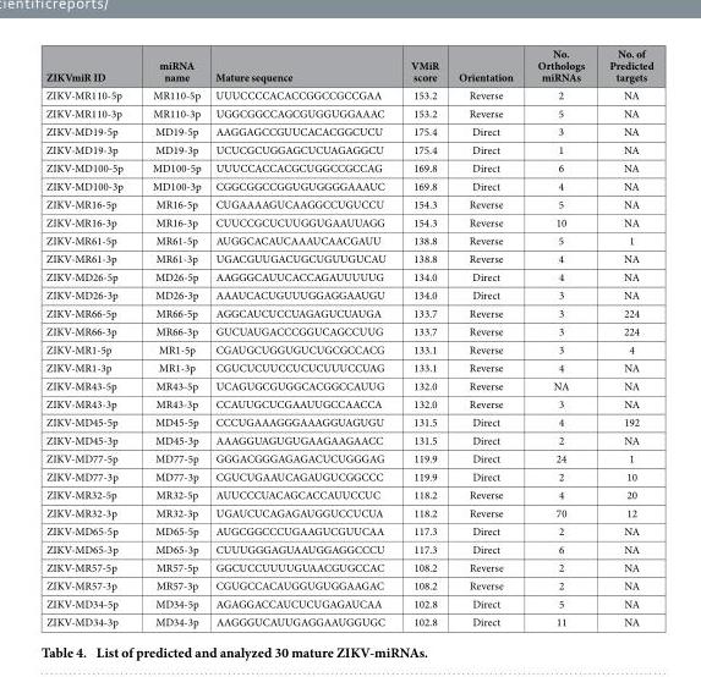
<table><thead><tr><td>ZIKVmiR ID</td><td>miRNA name</td><td>Mature sequence</td><td>VMiR score</td><td>Orientation</td><td>No. Orthologs miRNAs</td><td>No. of Predicted targets</td></tr></thead><tbody><tr><td>ZIKV-MR110-5p</td><td>MR110-5p</td><td>UUUCCCCACACCGGCCGCCGAA</td><td>153.2</td><td>Reverse</td><td>2</td><td>NA</td></tr><tr><td>ZIKV-MR110-3p</td><td>MR110-3p</td><td>UGGCGGCCAGCGUGGUGGAAAC</td><td>153.2</td><td>Reverse</td><td>5</td><td>NA</td></tr><tr><td>ZIKV-MD19-5p</td><td>MD19-5p</td><td>AAGGAGCCGUUCACACGGCUCU</td><td>175.4</td><td>Direct</td><td>3</td><td>NA</td></tr><tr><td>ZIKV-MD19-3p</td><td>MD19-3p</td><td>UCUCGCUGGAGCUCUAGAGGCU</td><td>175.4</td><td>Direct</td><td>1</td><td>NA</td></tr><tr><td>ZIKV-MD100-5p</td><td>MD100-5p</td><td>UUUCCACCACGCUGGCCGCCAG</td><td>169.8</td><td>Direct</td><td>6</td><td>NA</td></tr><tr><td>ZIKV-MD100-3p</td><td>MD100-3p</td><td>CGGCGGCCGGUGUGGGGAAAUC</td><td>169.8</td><td>Direct</td><td>4</td><td>NA</td></tr><tr><td>ZIKV-MR16-5p</td><td>MR16-5p</td><td>CUGAAAAGUCAAGGCCUGUCCU</td><td>154.3</td><td>Reverse</td><td>5</td><td>NA</td></tr><tr><td>ZIKV-MR16-3p</td><td>MR16-3p</td><td>CUUCCGCUCUUGGUGAAUUAGG</td><td>154.3</td><td>Reverse</td><td>10</td><td>NA</td></tr><tr><td>ZIKV-MR61-5p</td><td>MR61-5p</td><td>AUGGCACAUCAAAUCAACGAUU</td><td>138.8</td><td>Reverse</td><td>5</td><td>1</td></tr><tr><td>ZIKV-MR61-3p</td><td>MR61-3p</td><td>UGACGUUGACUGCUGUUGUCAU</td><td>138.8</td><td>Reverse</td><td>4</td><td>NA</td></tr><tr><td>ZIKV-MD26-5p</td><td>MD26-5p</td><td>AAGGGCAUUCACCAGAUUUUUG</td><td>134.0</td><td>Direct</td><td>4</td><td>NA</td></tr><tr><td>ZIKV-MD26-3p</td><td>MD26-3p</td><td>AAAUCACUGUUUGGAGGAAUGU</td><td>134.0</td><td>Direct</td><td>3</td><td>NA</td></tr><tr><td>ZIKV-MR66-5p</td><td>MR66-5p</td><td>AGGCAUCUCCUAGAGUCUAUGA</td><td>133.7</td><td>Reverse</td><td>3</td><td>224</td></tr><tr><td>ZIKV-MR66-3p</td><td>MR66-3p</td><td>GUCUAUGACCCGGUCAGCCUUG</td><td>133.7</td><td>Reverse</td><td>3</td><td>224</td></tr><tr><td>ZIKV-MR1-5p</td><td>MR1-5p</td><td>CGAUGCUGGUGUCUGCGCCACG</td><td>133.1</td><td>Reverse</td><td>3</td><td>4</td></tr><tr><td>ZIKV-MR1-3p</td><td>MR1-3p</td><td>CGUCUCUUCCUCUCUUUCCUAG</td><td>133.1</td><td>Reverse</td><td>4</td><td>NA</td></tr><tr><td>ZIKV-MR43-5p</td><td>MR43-5p</td><td>UCAGUGCGUGGCACGGCCAUUG</td><td>132.0</td><td>Reverse</td><td>NA</td><td>NA</td></tr><tr><td>ZIKV-MR43-3p</td><td>MR43-3p</td><td>CCAUUGCUCGAAUUGCCAACCA</td><td>132.0</td><td>Reverse</td><td>3</td><td>NA</td></tr><tr><td>ZIKV-MD45-5p</td><td>MD45-5p</td><td>CCCUGAAAGGGAAAGGUAGUGU</td><td>131.5</td><td>Direct</td><td>4</td><td>192</td></tr><tr><td>ZIKV-MD45-3p</td><td>MD45-3p</td><td>AAAGGUAGUGUGAAGAAGAACC</td><td>131.5</td><td>Direct</td><td>2</td><td>NA</td></tr><tr><td>ZIKV-MD77-5p</td><td>MD77-5p</td><td>GGGACGGGAGAGACUCUGGGAG</td><td>119.9</td><td>Direct</td><td>24</td><td>1</td></tr><tr><td>ZIKV-MD77-3p</td><td>MD77-3p</td><td>CGUCUGAAUCAGAUGUCGGCCC</td><td>119.9</td><td>Direct</td><td>2</td><td>10</td></tr><tr><td>ZIKV-MR32-5p</td><td>MR32-5p</td><td>AUUCCCUACAGCACCAUUCCUC</td><td>118.2</td><td>Reverse</td><td>4</td><td>20</td></tr><tr><td>ZIKV-MR32-3p</td><td>MR32-3p</td><td>UGAUCUCAGAGAUGGUCCUCUA</td><td>118.2</td><td>Reverse</td><td>70</td><td>12</td></tr><tr><td>ZIKV-MD65-5p</td><td>MD65-5p</td><td>AUGCGGCCCUGAAGUCGUUCAA</td><td>117.3</td><td>Direct</td><td>2</td><td>NA</td></tr><tr><td>ZIKV-MD65-3p</td><td>MD65-3p</td><td>CUUUGGGAGUAAUGGAGGCCCU</td><td>117.3</td><td>Direct</td><td>6</td><td>NA</td></tr><tr><td>ZIKV-MR57-5p</td><td>MR57-5p</td><td>GGCUCCUUUUGUAACGUGCCAC</td><td>108.2</td><td>Reverse</td><td>2</td><td>NA</td></tr><tr><td>ZIKV-MR57-3p</td><td>MR57-3p</td><td>CGUGCCACAUGGUGUGGAAGAC</td><td>108.2</td><td>Reverse</td><td>2</td><td>NA</td></tr><tr><td>ZIKV-MD34-5p</td><td>MD34-5p</td><td>AGAGGACCAUCUCUGAGAUCAA</td><td>102.8</td><td>Direct</td><td>5</td><td>NA</td></tr><tr><td>ZIKV-MD34-3p</td><td>MD34-3p</td><td>AAGGGUCAUUGAGGAAUGGUGC</td><td>102.8</td><td>Direct</td><td>11</td><td>NA</td></tr></tbody></table>